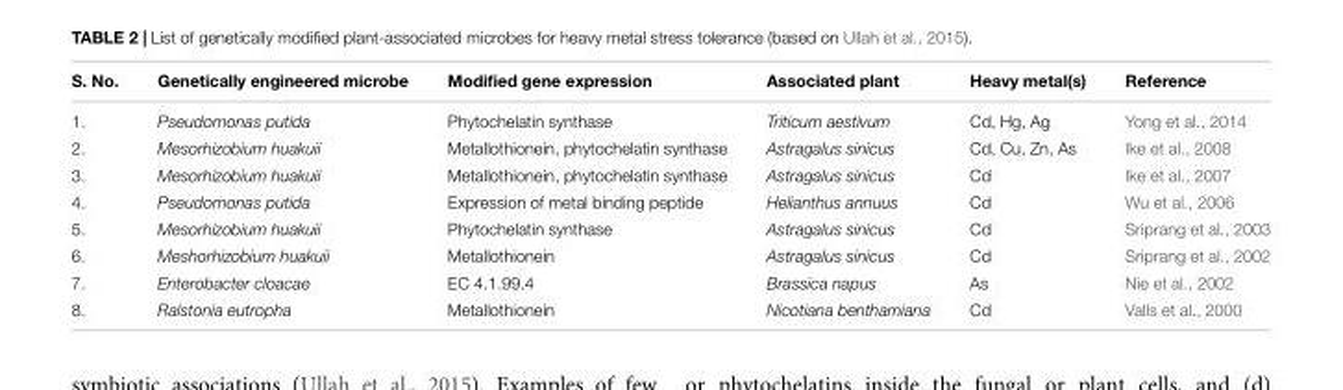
<table><thead><tr><td>S. No.</td><td>Genetically engineered microbe</td><td>Modified gene expression</td><td>Associated plant</td><td>Heavy metal(s)</td><td>Reference</td></tr></thead><tbody><tr><td>1.</td><td>Pseudomonas putida</td><td>Phytochelatin synthase</td><td>Triticum aestivum</td><td>Cd, Hg, Ag</td><td>Yong et al., 2014</td></tr><tr><td>2.</td><td>Mesorhizobium huakuii</td><td>Metallothionein, phytochelatin synthase</td><td>Astragalus sinicus</td><td>Cd, Cu, Zn, As</td><td>Ike et al., 2008</td></tr><tr><td>3.</td><td>Mesorhizobium huakuii</td><td>Metallothionein, phytochelatin synthase</td><td>Astragalus sinicus</td><td>Cd</td><td>Ike et al., 2007</td></tr><tr><td>4.</td><td>Pseudomonas putida</td><td>Expression of metal binding peptide</td><td>Helianthus annuus</td><td>Cd</td><td>Wu et al., 2006</td></tr><tr><td>5.</td><td>Mesorhizobium huakuii</td><td>Phytochelatin synthase</td><td>Astragalus sinicus</td><td>Cd</td><td>Sriprang et al., 2003</td></tr><tr><td>6.</td><td>Meshorhizobium huakuii</td><td>Metallothionein</td><td>Astragalus sinicus</td><td>Cd</td><td>Sriprang et al., 2002</td></tr><tr><td>7.</td><td>Enterobacter cloacae</td><td>EC 4.1.99.4</td><td>Brassica napus</td><td>As</td><td>Nie et al., 2002</td></tr><tr><td>8.</td><td>Ralstonia eutropha</td><td>Metallothionein</td><td>Nicotiana benthamiana</td><td>Cd</td><td>Valls et al., 2000</td></tr></tbody></table>